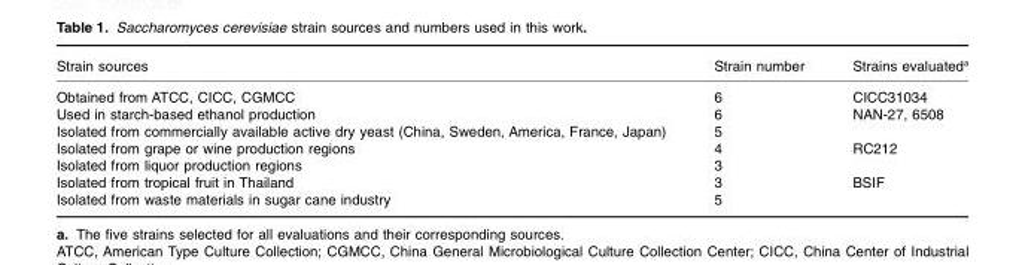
<table><thead><tr><td>Strain sources</td><td>Strain number</td><td>Strains evaluated<sup>a</sup></td></tr></thead><tbody><tr><td>Obtained from ATCC, CICC, CGMCC</td><td>6</td><td>CICC31034</td></tr><tr><td>Used in starch-based ethanol production</td><td>6</td><td rowspan="2">NAN-27, 6508</td></tr><tr><td>Isolated from commercially available active dry yeast (China, Sweden, America, France, Japan)</td><td>5</td></tr><tr><td>Isolated from grape or wine production regions</td><td>4</td><td>RC212</td></tr><tr><td>Isolated from liquor production regions</td><td>3</td><td></td></tr><tr><td>Isolated from tropical fruit in Thailand</td><td>3</td><td>BSIF</td></tr><tr><td>Isolated from waste materials in sugar cane industry</td><td>5</td><td></td></tr></tbody></table>